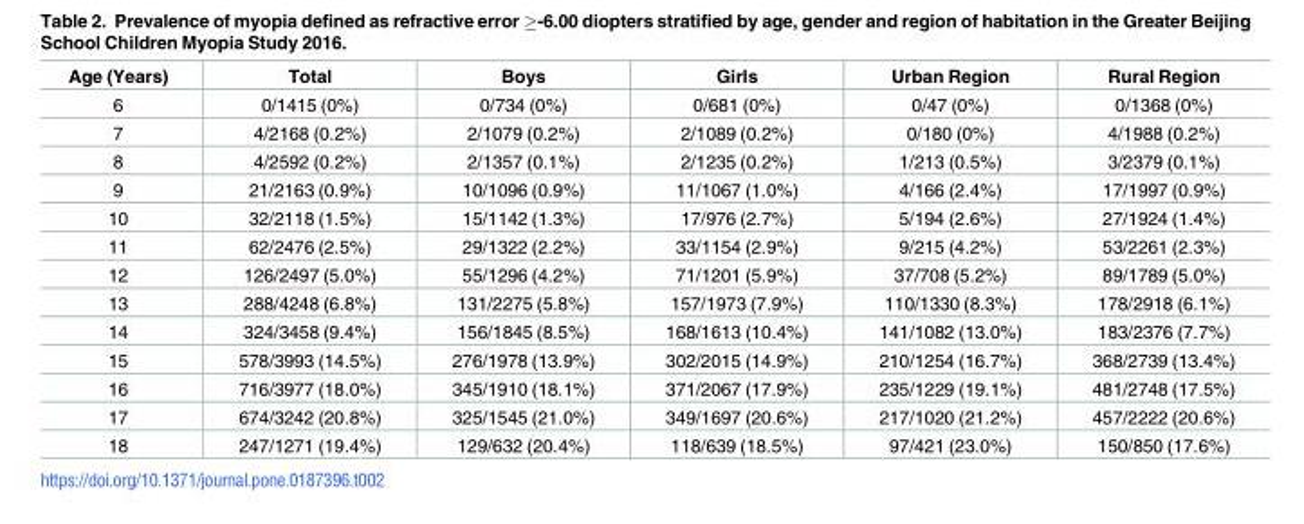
<table><thead><tr><td>Age (Years)</td><td>Total</td><td>Boys</td><td>Girls</td><td>Urban Region</td><td>Rural Region</td></tr></thead><tbody><tr><td>6</td><td>0/1415 (0%)</td><td>0/734 (0%)</td><td>0/681 (0%)</td><td>0/47 (0%)</td><td>0/1368 (0%)</td></tr><tr><td>7</td><td>4/2168 (0.2%)</td><td>2/1079 (0.2%)</td><td>2/1089 (0.2%)</td><td>0/180 (0%)</td><td>4/1988 (0.2%)</td></tr><tr><td>8</td><td>4/2592 (0.2%)</td><td>2/1357 (0.1%)</td><td>2/1235 (0.2%)</td><td>1/213 (0.5%)</td><td>3/2379 (0.1%)</td></tr><tr><td>9</td><td>21/2163 (0.9%)</td><td>10/1096 (0.9%)</td><td>11/1067 (1.0%)</td><td>4/166 (2.4%)</td><td>17/1997 (0.9%)</td></tr><tr><td>10</td><td>32/2118 (1.5%)</td><td>15/1142 (1.3%)</td><td>17/976 (2.7%)</td><td>5/194 (2.6%)</td><td>27/1924 (1.4%)</td></tr><tr><td>11</td><td>62/2476 (2.5%)</td><td>29/1322 (2.2%)</td><td>33/1154 (2.9%)</td><td>9/215 (4.2%)</td><td>53/2261 (2.3%)</td></tr><tr><td>12</td><td>126/2497 (5.0%)</td><td>55/1296 (4.2%)</td><td>71/1201 (5.9%)</td><td>37/708 (5.2%)</td><td>89/1789 (5.0%)</td></tr><tr><td>13</td><td>288/4248 (6.8%)</td><td>131/2275 (5.8%)</td><td>157/1973 (7.9%)</td><td>110/1330 (8.3%)</td><td>178/2918 (6.1%)</td></tr><tr><td>14</td><td>324/3458 (9.4%)</td><td>156/1845 (8.5%)</td><td>168/1613 (10.4%)</td><td>141/1082 (13.0%)</td><td>183/2376 (7.7%)</td></tr><tr><td>15</td><td>578/3993 (14.5%)</td><td>276/1978 (13.9%)</td><td>302/2015 (14.9%)</td><td>210/1254 (16.7%)</td><td>368/2739 (13.4%)</td></tr><tr><td>16</td><td>716/3977 (18.0%)</td><td>345/1910 (18.1%)</td><td>371/2067 (17.9%)</td><td>235/1229 (19.1%)</td><td>481/2748 (17.5%)</td></tr><tr><td>17</td><td>674/3242 (20.8%)</td><td>325/1545 (21.0%)</td><td>349/1697 (20.6%)</td><td>217/1020 (21.2%)</td><td>457/2222 (20.6%)</td></tr><tr><td>18</td><td>247/1271 (19.4%)</td><td>129/632 (20.4%)</td><td>118/639 (18.5%)</td><td>97/421 (23.0%)</td><td>150/850 (17.6%)</td></tr></tbody></table>